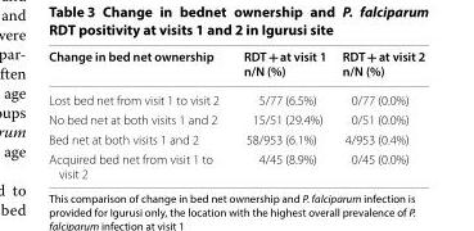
<table><thead><tr><td>Change in bed net ownership</td><td>RDT + at visit 1 n/N (%)</td><td>RDT + at visit 2 n/N (%)</td></tr></thead><tbody><tr><td>Lost bed net from visit 1 to visit 2</td><td>5/77 (6.5%)</td><td>0/77 (0.0%)</td></tr><tr><td>No bed net at both visits 1 and 2</td><td>15/51 (29.4%)</td><td>0/51 (0.0%)</td></tr><tr><td>Bed net at both visits 1 and 2</td><td>58/953 (6.1%)</td><td>4/953 (0.4%)</td></tr><tr><td>Acquired bed net from visit 1 to visit 2</td><td>4/45 (8.9%)</td><td>0/45 (0.0%)</td></tr></tbody></table>